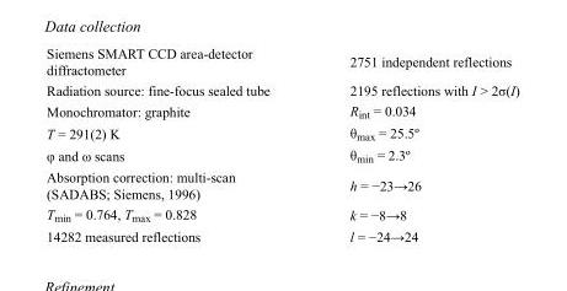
<table><tbody><tr><td>Siemens SMART CCD area-detector diffractometer</td><td>2751 independent reflections</td></tr><tr><td>Radiation source: fine-focus sealed tube</td><td>2195 reflections with I &gt; 2σ(I)</td></tr><tr><td>Monochromator: graphite</td><td>R<sub>int</sub> = 0.034</td></tr><tr><td>T = 291(2) K</td><td>θ<sub>max</sub> = 25.5º</td></tr><tr><td>φ and ω scans</td><td>θ<sub>min</sub> = 2.3º</td></tr><tr><td>Absorption correction: multi-scan (SADABS; Siemens, 1996)</td><td>h = −23→26</td></tr><tr><td>T<sub>min</sub> = 0.764, T<sub>max</sub> = 0.828</td><td>k = −8→8</td></tr><tr><td>14282 measured reflections</td><td>l = −24→24</td></tr></tbody></table>